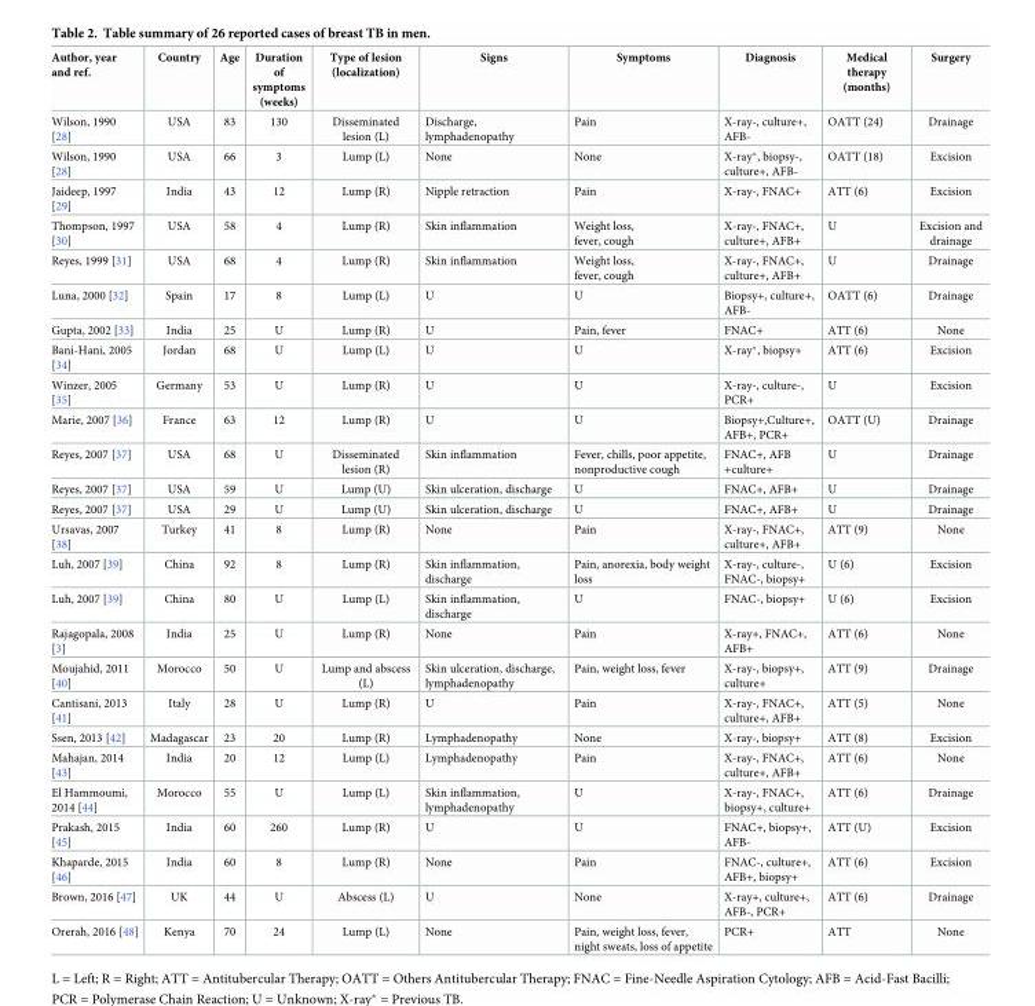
<table><thead><tr><td>Author, year and ref.</td><td>Country</td><td>Age</td><td>Duration of symptoms (weeks)</td><td>Type of lesion (localization)</td><td>Signs</td><td>Symptoms</td><td>Diagnosis</td><td>Medical therapy (months)</td><td>Surgery</td></tr></thead><tbody><tr><td>Wilson, 1990 [28]</td><td>USA</td><td>83</td><td>130</td><td>Disseminated lesion (L)</td><td>Discharge, lymphadenopathy</td><td>Pain</td><td>X-ray-, culture+, AFB-</td><td>OATT (24)</td><td>Drainage</td></tr><tr><td>Wilson, 1990 [28]</td><td>USA</td><td>66</td><td>3</td><td>Lump (L)</td><td>None</td><td>None</td><td>X-ray*, biopsy-, culture+, AFB-</td><td>OATT (18)</td><td>Excision</td></tr><tr><td>Jaideep, 1997 [29]</td><td>India</td><td>43</td><td>12</td><td>Lump (R)</td><td>Nipple retraction</td><td>Pain</td><td>X-ray-, FNAC+</td><td>ATT (6)</td><td>Excision</td></tr><tr><td>Thompson, 1997 [30]</td><td>USA</td><td>58</td><td>4</td><td>Lump (R)</td><td>Skin inflammation</td><td>Weight loss, fever, cough</td><td>X-ray-, FNAC+, culture+, AFB+</td><td>U</td><td>Excision and drainage</td></tr><tr><td>Reyes, 1999 [31]</td><td>USA</td><td>68</td><td>4</td><td>Lump (R)</td><td>Skin inflammation</td><td>Weight loss, fever, cough</td><td>X-ray-, FNAC+, culture+, AFB+</td><td>U</td><td>Drainage</td></tr><tr><td>Luna, 2000 [32]</td><td>Spain</td><td>17</td><td>8</td><td>Lump (L)</td><td>U</td><td>U</td><td>Biopsy+, culture+, AFB-</td><td>OATT (6)</td><td>Drainage</td></tr><tr><td>Gupta, 2002 [33]</td><td>India</td><td>25</td><td>U</td><td>Lump (R)</td><td>U</td><td>Pain, fever</td><td>FNAC+</td><td>ATT (6)</td><td>None</td></tr><tr><td>Bani-Hani, 2005 [34]</td><td>Jordan</td><td>68</td><td>U</td><td>Lump (L)</td><td>U</td><td>U</td><td>X-ray*, biopsy+</td><td>ATT (6)</td><td>Excision</td></tr><tr><td>Winzer, 2005 [35]</td><td>Germany</td><td>53</td><td>U</td><td>Lump (R)</td><td>U</td><td>U</td><td>X-ray-, culture-, PCR+</td><td>U</td><td>Excision</td></tr><tr><td>Marie, 2007 [36]</td><td>France</td><td>63</td><td>12</td><td>Lump (R)</td><td>U</td><td>U</td><td>Biopsy+,Culture+, AFB+, PCR+</td><td>OATT (U)</td><td>Drainage</td></tr><tr><td>Reyes, 2007 [37]</td><td>USA</td><td>68</td><td>U</td><td>Disseminated lesion (R)</td><td>Skin inflammation</td><td>Fever, chills, poor appetite, nonproductive cough</td><td>FNAC+, AFB +culture+</td><td>U</td><td>Drainage</td></tr><tr><td>Reyes, 2007 [37]</td><td>USA</td><td>59</td><td>U</td><td>Lump (U)</td><td>Skin ulceration, discharge</td><td>U</td><td>FNAC+, AFB+</td><td>U</td><td>Drainage</td></tr><tr><td>Reyes, 2007 [37]</td><td>USA</td><td>29</td><td>U</td><td>Lump (U)</td><td>Skin ulceration, discharge</td><td>U</td><td>FNAC+, AFB+</td><td>U</td><td>Drainage</td></tr><tr><td>Ursavas, 2007 [38]</td><td>Turkey</td><td>41</td><td>8</td><td>Lump (R)</td><td>None</td><td>Pain</td><td>X-ray-, FNAC+, culture+, AFB+</td><td>ATT (9)</td><td>None</td></tr><tr><td>Luh, 2007 [39]</td><td>China</td><td>92</td><td>8</td><td>Lump (R)</td><td>Skin inflammation, discharge</td><td>Pain, anorexia, body weight loss</td><td>X-ray-, culture-, FNAC-, biopsy+</td><td>U (6)</td><td>Excision</td></tr><tr><td>Luh, 2007 [39]</td><td>China</td><td>80</td><td>U</td><td>Lump (L)</td><td>Skin inflammation, discharge</td><td>U</td><td>FNAC-, biopsy+</td><td>U (6)</td><td>Excision</td></tr><tr><td>Rajagopala, 2008 [3]</td><td>India</td><td>25</td><td>U</td><td>Lump (R)</td><td>None</td><td>Pain</td><td>X-ray+, FNAC+, AFB+</td><td>ATT (6)</td><td>None</td></tr><tr><td>Moujahid, 2011 [40]</td><td>Morocco</td><td>50</td><td>U</td><td>Lump and abscess (L)</td><td>Skin ulceration, discharge, lymphadenopathy</td><td>Pain, weight loss, fever</td><td>X-ray-, biopsy+, culture+</td><td>ATT (9)</td><td>Drainage</td></tr><tr><td>Cantisani, 2013 [41]</td><td>Italy</td><td>28</td><td>U</td><td>Lump (R)</td><td>U</td><td>Pain</td><td>X-ray-, FNAC+, culture+, AFB+</td><td>ATT (5)</td><td>None</td></tr><tr><td>Ssen, 2013 [42]</td><td>Madagascar</td><td>23</td><td>20</td><td>Lump (R)</td><td>Lymphadenopathy</td><td>None</td><td>X-ray-, biopsy+</td><td>ATT (8)</td><td>Excision</td></tr><tr><td>Mahajan, 2014 [43]</td><td>India</td><td>20</td><td>12</td><td>Lump (L)</td><td>Lymphadenopathy</td><td>Pain</td><td>X-ray-, FNAC+, culture+, AFB+</td><td>ATT (6)</td><td>None</td></tr><tr><td>El Hammoumi, 2014 [44]</td><td>Morocco</td><td>55</td><td>U</td><td>Lump (L)</td><td>Skin inflammation, lymphadenopathy</td><td>U</td><td>X-ray-, FNAC+, biopsy+, culture+</td><td>ATT (6)</td><td>Drainage</td></tr><tr><td>Prakash, 2015 [45]</td><td>India</td><td>60</td><td>260</td><td>Lump (R)</td><td>U</td><td>U</td><td>FNAC+, biopsy+, AFB-</td><td>ATT (U)</td><td>Excision</td></tr><tr><td>Khaparde, 2015 [46]</td><td>India</td><td>60</td><td>8</td><td>Lump (R)</td><td>None</td><td>Pain</td><td>FNAC-, culture+, AFB+, biopsy+</td><td>ATT (6)</td><td>Excision</td></tr><tr><td>Brown, 2016 [47]</td><td>UK</td><td>44</td><td>U</td><td>Abscess (L)</td><td>U</td><td>None</td><td>X-ray+, culture+, AFB-, PCR+</td><td>ATT (6)</td><td>Drainage</td></tr><tr><td>Orerah, 2016 [48]</td><td>Kenya</td><td>70</td><td>24</td><td>Lump (L)</td><td>None</td><td>Pain, weight loss, fever, night sweats, loss of appetite</td><td>PCR+</td><td>ATT</td><td>None</td></tr></tbody></table>